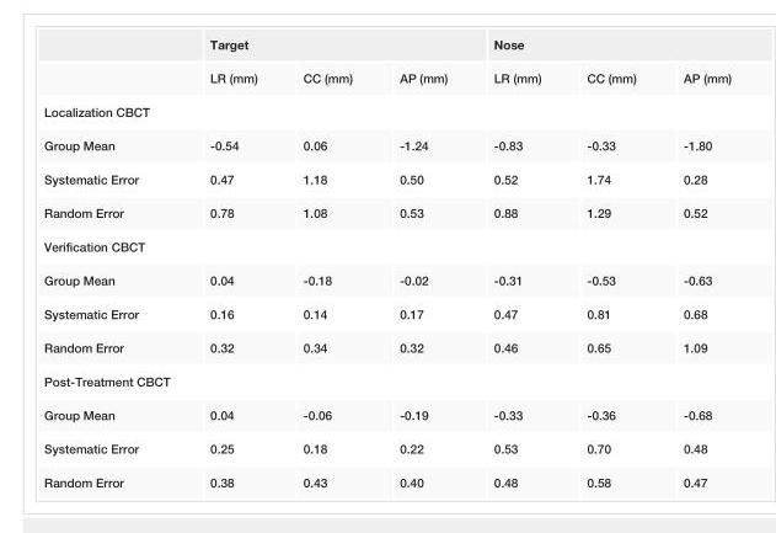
<table><thead><tr><td rowspan="2"></td><td colspan="3">Target</td><td colspan="3">Nose</td></tr><tr><td>LR (mm)</td><td>CC (mm)</td><td>AP (mm)</td><td>LR (mm)</td><td>CC (mm)</td><td>AP (mm)</td></tr></thead><tbody><tr><td colspan="7">Localization CBCT</td></tr><tr><td>Group Mean</td><td>-0.54</td><td>0.06</td><td>-1.24</td><td>-0.83</td><td>-0.33</td><td>-1.80</td></tr><tr><td>Systematic Error</td><td>0.47</td><td>1.18</td><td>0.50</td><td>0.52</td><td>1.74</td><td>0.28</td></tr><tr><td>Random Error</td><td>0.78</td><td>1.08</td><td>0.53</td><td>0.88</td><td>1.29</td><td>0.52</td></tr><tr><td colspan="7">Verification CBCT</td></tr><tr><td>Group Mean</td><td>0.04</td><td>-0.18</td><td>-0.02</td><td>-0.31</td><td>-0.53</td><td>-0.63</td></tr><tr><td>Systematic Error</td><td>0.16</td><td>0.14</td><td>0.17</td><td>0.47</td><td>0.81</td><td>0.68</td></tr><tr><td>Random Error</td><td>0.32</td><td>0.34</td><td>0.32</td><td>0.46</td><td>0.65</td><td>1.09</td></tr><tr><td colspan="7">Post-Treatment CBCT</td></tr><tr><td>Group Mean</td><td>0.04</td><td>-0.06</td><td>-0.19</td><td>-0.33</td><td>-0.36</td><td>-0.68</td></tr><tr><td>Systematic Error</td><td>0.25</td><td>0.18</td><td>0.22</td><td>0.53</td><td>0.70</td><td>0.48</td></tr><tr><td>Random Error</td><td>0.38</td><td>0.43</td><td>0.40</td><td>0.48</td><td>0.58</td><td>0.47</td></tr></tbody></table>